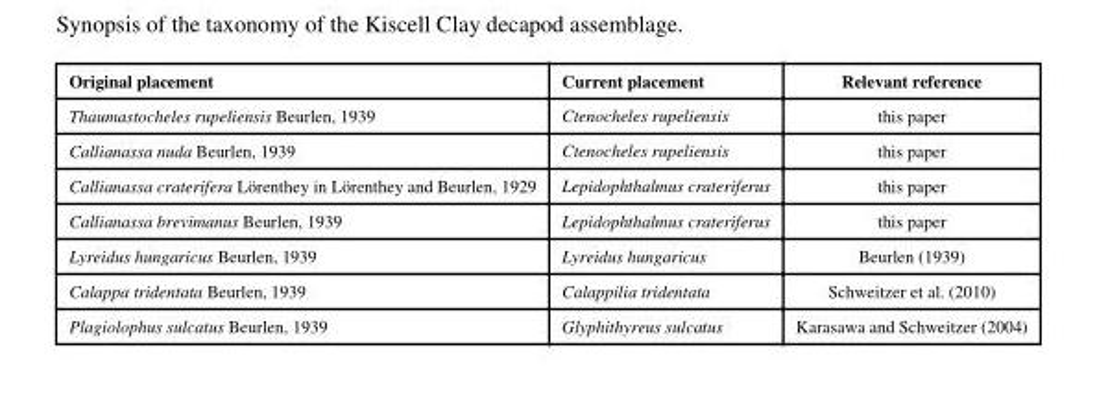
<table><thead><tr><td>Original placement</td><td>Current placement</td><td>Relevant reference</td></tr></thead><tbody><tr><td>Thaumastocheles rupeliensis Beurlen, 1939</td><td>Ctenocheles rupeliensis</td><td>this paper</td></tr><tr><td>Callianassa nuda Beurlen, 1939</td><td>Ctenocheles rupeliensis</td><td>this paper</td></tr><tr><td>Callianassa craterifera Lörenthey in Lörenthey and Beurlen, 1929</td><td>Lepidophthalmus crateriferus</td><td>this paper</td></tr><tr><td>Callianassa brevimanus Beurlen, 1939</td><td>Lepidophthalmus crateriferus</td><td>this paper</td></tr><tr><td>Lyreidus hungaricus Beurlen, 1939</td><td>Lyreidus hungaricus</td><td>Beurlen (1939)</td></tr><tr><td>Calappa tridentata Beurlen, 1939</td><td>Calappilia tridentata</td><td>Schweitzer et al. (2010)</td></tr><tr><td>Plagiolophus sulcatus Beurlen, 1939</td><td>Glyphithyreus sulcatus</td><td>Karasawa and Schweitzer (2004)</td></tr></tbody></table>